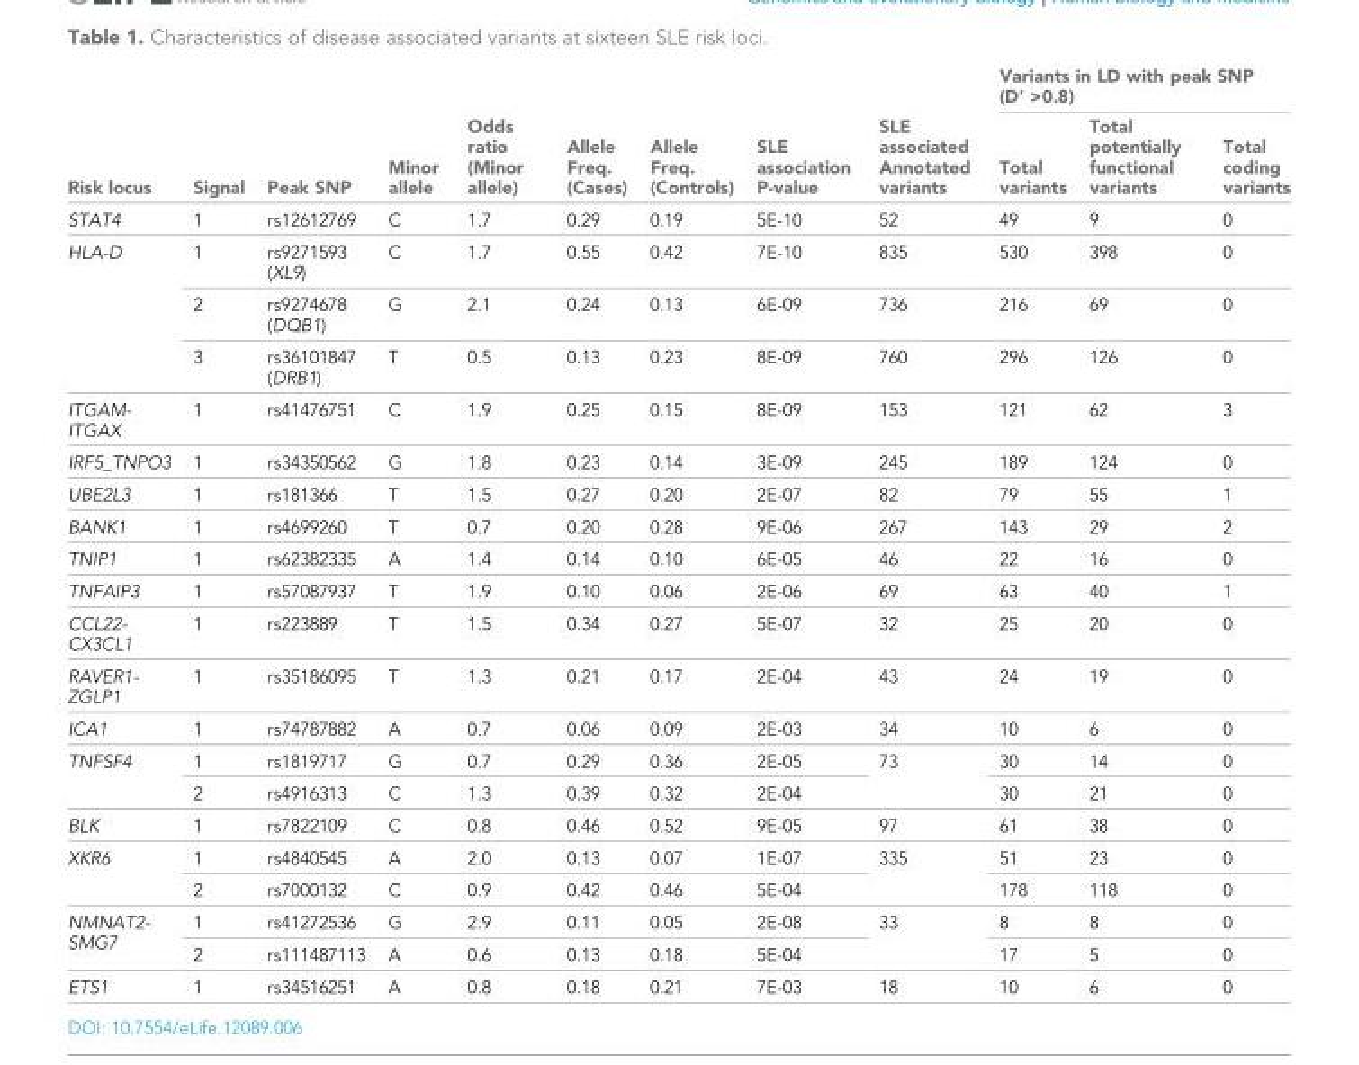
<table><thead><tr><td rowspan="2">Risk locus</td><td rowspan="2">Signal</td><td rowspan="2">Peak SNP</td><td rowspan="2">Minor allele</td><td rowspan="2">Odds ratio (Minor allele)</td><td rowspan="2">Allele Freq. (Cases)</td><td rowspan="2">Allele Freq. (Controls)</td><td rowspan="2">SLE association P-value</td><td rowspan="2">SLE associated Annotated variants</td><td colspan="3">Variants in LD with peak SNP (D’ &gt;0.8)</td></tr><tr><td>Total variants</td><td>Total potentially functional variants</td><td>Total coding variants</td></tr></thead><tbody><tr><td>STAT4</td><td>1</td><td>rs12612769</td><td>C</td><td>1.7</td><td>0.29</td><td>0.19</td><td>5E-10</td><td>52</td><td>49</td><td>9</td><td>0</td></tr><tr><td rowspan="3">HLA-D</td><td>1</td><td>rs9271593 (XL9)</td><td>C</td><td>1.7</td><td>0.55</td><td>0.42</td><td>7E-10</td><td>835</td><td>530</td><td>398</td><td>0</td></tr><tr><td>2</td><td>rs9274678 (DQB1)</td><td>G</td><td>2.1</td><td>0.24</td><td>0.13</td><td>6E-09</td><td>736</td><td>216</td><td>69</td><td>0</td></tr><tr><td>3</td><td>rs36101847 (DRB1)</td><td>T</td><td>0.5</td><td>0.13</td><td>0.23</td><td>8E-09</td><td>760</td><td>296</td><td>126</td><td>0</td></tr><tr><td>ITGAM- ITGAX</td><td>1</td><td>rs41476751</td><td>C</td><td>1.9</td><td>0.25</td><td>0.15</td><td>8E-09</td><td>153</td><td>121</td><td>62</td><td>3</td></tr><tr><td>IRF5_TNPO3</td><td>1</td><td>rs34350562</td><td>G</td><td>1.8</td><td>0.23</td><td>0.14</td><td>3E-09</td><td>245</td><td>189</td><td>124</td><td>0</td></tr><tr><td>UBE2L3</td><td>1</td><td>rs181366</td><td>T</td><td>1.5</td><td>0.27</td><td>0.20</td><td>2E-07</td><td>82</td><td>79</td><td>55</td><td>1</td></tr><tr><td>BANK1</td><td>1</td><td>rs4699260</td><td>T</td><td>0.7</td><td>0.20</td><td>0.28</td><td>9E-06</td><td>267</td><td>143</td><td>29</td><td>2</td></tr><tr><td>TNIP1</td><td>1</td><td>rs62382335</td><td>A</td><td>1.4</td><td>0.14</td><td>0.10</td><td>6E-05</td><td>46</td><td>22</td><td>16</td><td>0</td></tr><tr><td>TNFAIP3</td><td>1</td><td>rs57087937</td><td>T</td><td>1.9</td><td>0.10</td><td>0.06</td><td>2E-06</td><td>69</td><td>63</td><td>40</td><td>1</td></tr><tr><td>CCL22- CX3CL1</td><td>1</td><td>rs223889</td><td>T</td><td>1.5</td><td>0.34</td><td>0.27</td><td>5E-07</td><td>32</td><td>25</td><td>20</td><td>0</td></tr><tr><td>RAVER1- ZGLP1</td><td>1</td><td>rs35186095</td><td>T</td><td>1.3</td><td>0.21</td><td>0.17</td><td>2E-04</td><td>43</td><td>24</td><td>19</td><td>0</td></tr><tr><td>ICA1</td><td>1</td><td>rs74787882</td><td>A</td><td>0.7</td><td>0.06</td><td>0.09</td><td>2E-03</td><td>34</td><td>10</td><td>6</td><td>0</td></tr><tr><td rowspan="2">TNFSF4</td><td>1</td><td>rs1819717</td><td>G</td><td>0.7</td><td>0.29</td><td>0.36</td><td>2E-05</td><td rowspan="2">73</td><td>30</td><td>14</td><td>0</td></tr><tr><td>2</td><td>rs4916313</td><td>C</td><td>1.3</td><td>0.39</td><td>0.32</td><td>2E-04</td><td>30</td><td>21</td><td>0</td></tr><tr><td>BLK</td><td>1</td><td>rs7822109</td><td>C</td><td>0.8</td><td>0.46</td><td>0.52</td><td>9E-05</td><td>97</td><td>61</td><td>38</td><td>0</td></tr><tr><td rowspan="2">XKR6</td><td>1</td><td>rs4840545</td><td>A</td><td>2.0</td><td>0.13</td><td>0.07</td><td>1E-07</td><td rowspan="2">335</td><td>51</td><td>23</td><td>0</td></tr><tr><td>2</td><td>rs7000132</td><td>C</td><td>0.9</td><td>0.42</td><td>0.46</td><td>5E-04</td><td>178</td><td>118</td><td>0</td></tr><tr><td rowspan="2">NMNAT2- SMG7</td><td>1</td><td>rs41272536</td><td>G</td><td>2.9</td><td>0.11</td><td>0.05</td><td>2E-08</td><td rowspan="2">33</td><td>8</td><td>8</td><td>0</td></tr><tr><td>2</td><td>rs111487113</td><td>A</td><td>0.6</td><td>0.13</td><td>0.18</td><td>5E-04</td><td>17</td><td>5</td><td>0</td></tr><tr><td>ETS1</td><td>1</td><td>rs34516251</td><td>A</td><td>0.8</td><td>0.18</td><td>0.21</td><td>7E-03</td><td>18</td><td>10</td><td>6</td><td>0</td></tr></tbody></table>